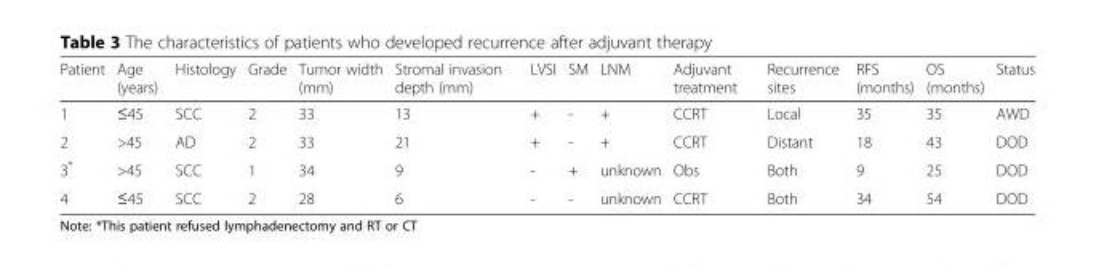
<table><thead><tr><td>Patient</td><td>Age (years)</td><td>Histology</td><td>Grade</td><td>Tumor width (mm)</td><td>Stromal invasion depth (mm)</td><td>LVSI</td><td>SM</td><td>LNM</td><td>Adjuvant treatment</td><td>Recurrence sites</td><td>RFS (months)</td><td>OS (months)</td><td>Status</td></tr></thead><tbody><tr><td>1</td><td>≤45</td><td>SCC</td><td>2</td><td>33</td><td>13</td><td>+</td><td>-</td><td>+</td><td>CCRT</td><td>Local</td><td>35</td><td>35</td><td>AWD</td></tr><tr><td>2</td><td>&gt;45</td><td>AD</td><td>2</td><td>33</td><td>21</td><td>+</td><td>-</td><td>+</td><td>CCRT</td><td>Distant</td><td>18</td><td>43</td><td>DOD</td></tr><tr><td>3*</td><td>&gt;45</td><td>SCC</td><td>1</td><td>34</td><td>9</td><td>-</td><td>+</td><td>unknown</td><td>Obs</td><td>Both</td><td>9</td><td>25</td><td>DOD</td></tr><tr><td>4</td><td>≤45</td><td>SCC</td><td>2</td><td>28</td><td>6</td><td>-</td><td>-</td><td>unknown</td><td>CCRT</td><td>Both</td><td>34</td><td>54</td><td>DOD</td></tr></tbody></table>